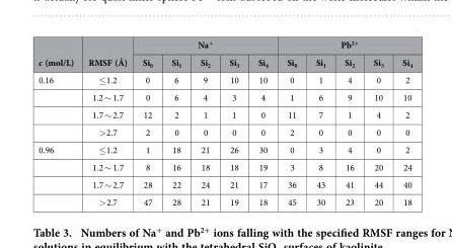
<table><thead><tr><td rowspan="2">c (mol/L)</td><td rowspan="2">RMSF (Å)</td><td colspan="5">Na<sup>+</sup></td><td colspan="5">Pb<sup>2+</sup></td></tr><tr><td>Si<sub>0</sub></td><td>Si<sub>1</sub></td><td>Si<sub>2</sub></td><td>Si<sub>3</sub></td><td>Si<sub>4</sub></td><td>Si<sub>0</sub></td><td>Si<sub>1</sub></td><td>Si<sub>2</sub></td><td>Si<sub>3</sub></td><td>Si<sub>4</sub></td></tr></thead><tbody><tr><td rowspan="4">0.16</td><td>≤ 1.2</td><td>0</td><td>6</td><td>9</td><td>10</td><td>10</td><td>0</td><td>1</td><td>4</td><td>0</td><td>2</td></tr><tr><td>1.2 ∼ 1.7</td><td>0</td><td>6</td><td>4</td><td>3</td><td>4</td><td>1</td><td>6</td><td>9</td><td>10</td><td>10</td></tr><tr><td>1.7 ∼ 2.7</td><td>12</td><td>2</td><td>1</td><td>1</td><td>0</td><td>11</td><td>7</td><td>1</td><td>4</td><td>2</td></tr><tr><td>&gt; 2.7</td><td>2</td><td>0</td><td>0</td><td>0</td><td>0</td><td>2</td><td>0</td><td>0</td><td>0</td><td>0</td></tr><tr><td rowspan="4">0.96</td><td>≤ 1.2</td><td>1</td><td>18</td><td>21</td><td>26</td><td>30</td><td>0</td><td>3</td><td>4</td><td>0</td><td>2</td></tr><tr><td>1.2 ∼ 1.7</td><td>8</td><td>16</td><td>18</td><td>18</td><td>19</td><td>3</td><td>8</td><td>16</td><td>20</td><td>24</td></tr><tr><td>1.7 ∼ 2.7</td><td>28</td><td>22</td><td>24</td><td>21</td><td>17</td><td>36</td><td>43</td><td>41</td><td>44</td><td>40</td></tr><tr><td>&gt; 2.7</td><td>47</td><td>28</td><td>21</td><td>19</td><td>18</td><td>45</td><td>30</td><td>23</td><td>20</td><td>18</td></tr></tbody></table>